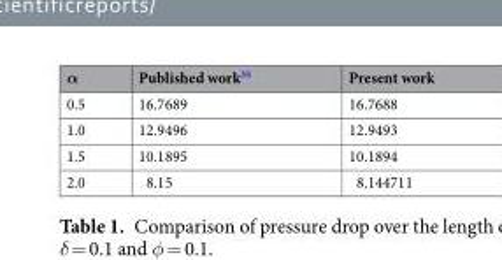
<table><thead><tr><td>α</td><td>Published work<sup>35</sup></td><td>Present work</td></tr></thead><tbody><tr><td>0.5</td><td>16.7689</td><td>16.7688</td></tr><tr><td>1.0</td><td>12.9496</td><td>12.9493</td></tr><tr><td>1.5</td><td>10.1895</td><td>10.1894</td></tr><tr><td>2.0</td><td>8.15</td><td>8.144711</td></tr></tbody></table>